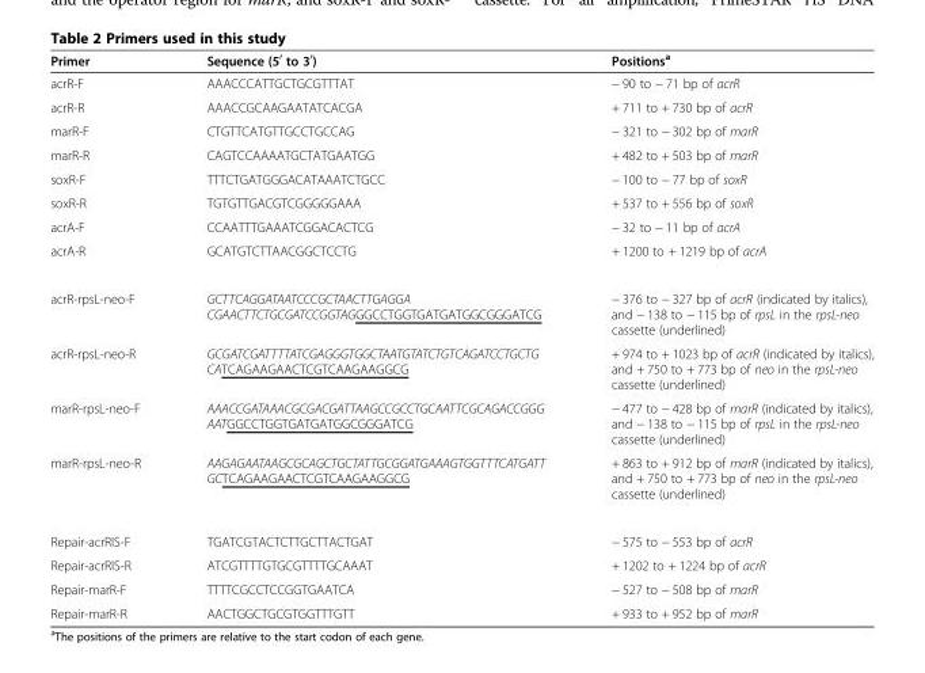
<table><thead><tr><td>Primer</td><td>Sequence (5<sup>′</sup> to 3<sup>′</sup>)</td><td>Positions<sup>a</sup></td></tr></thead><tbody><tr><td>acrR-F</td><td>AAACCCATTGCTGCGTTTAT</td><td>− 90 to − 71 bp of acrR</td></tr><tr><td>acrR-R</td><td>AAACCGCAAGAATATCACGA</td><td>+ 711 to + 730 bp of acrR</td></tr><tr><td>marR-F</td><td>CTGTTCATGTTGCCTGCCAG</td><td>− 321 to − 302 bp of marR</td></tr><tr><td>marR-R</td><td>CAGTCCAAAATGCTATGAATGG</td><td>+ 482 to + 503 bp of marR</td></tr><tr><td>soxR-F</td><td>TTTCTGATGGGACATAAATCTGCC</td><td>− 100 to − 77 bp of soxR</td></tr><tr><td>soxR-R</td><td>TGTGTTGACGTCGGGGGAAA</td><td>+ 537 to + 556 bp of soxR</td></tr><tr><td>acrA-F</td><td>CCAATTTGAAATCGGACACTCG</td><td>− 32 to − 11 bp of acrA</td></tr><tr><td>acrA-R</td><td>GCATGTCTTAACGGCTCCTG</td><td>+ 1200 to + 1219 bp of acrA</td></tr><tr><td>acrR-rpsL-neo-F</td><td>GCTTCAGGATAATCCCGCTAACTTGAGGA CGAACTTCTGCGATCCGGTAGGGCCTGGTGATGATGGCGGGATCG</td><td>− 376 to − 327 bp of acrR (indicated by italics), and − 138 to − 115 bp of rpsL in the rpsL-neo cassette (underlined)</td></tr><tr><td>acrR-rpsL-neo-R</td><td>GCGATCGATTTTATCGAGGGTGGCTAATGTATCTGTCAGATCCTGCTG CATCAGAAGAACTCGTCAAGAAGGCG</td><td>+ 974 to + 1023 bp of acrR (indicated by italics), and + 750 to + 773 bp of neo in the rpsL-neo cassette (underlined)</td></tr><tr><td>marR-rpsL-neo-F</td><td>AAACCGATAAACGCGACGATTAAGCCGCCTGCAATTCGCAGACCGGG AATGGCCTGGTGATGATGGCGGGATCG</td><td>− 477 to − 428 bp of marR (indicated by italics), and − 138 to − 115 bp of rpsL in the rpsL-neo cassette (underlined)</td></tr><tr><td>marR-rpsL-neo-R</td><td>AAGAGAATAAGCGCAGCTGCTATTGCGGATGAAAGTGGTTTCATGATT GCTCAGAAGAACTCGTCAAGAAGGCG</td><td>+ 863 to + 912 bp of marR (indicated by italics), and + 750 to + 773 bp of neo in the rpsL-neo cassette (underlined)</td></tr><tr><td>Repair-acrRIS-F</td><td>TGATCGTACTCTTGCTTACTGAT</td><td>− 575 to − 553 bp of acrR</td></tr><tr><td>Repair-acrRIS-R</td><td>ATCGTTTTGTGCGTTTTGCAAAT</td><td>+ 1202 to + 1224 bp of acrR</td></tr><tr><td>Repair-marR-F</td><td>TTTTCGCCTCCGGTGAATCA</td><td>− 527 to − 508 bp of marR</td></tr><tr><td>Repair-marR-R</td><td>AACTGGCTGCGTGGTTTGTT</td><td>+ 933 to + 952 bp of marR</td></tr></tbody></table>